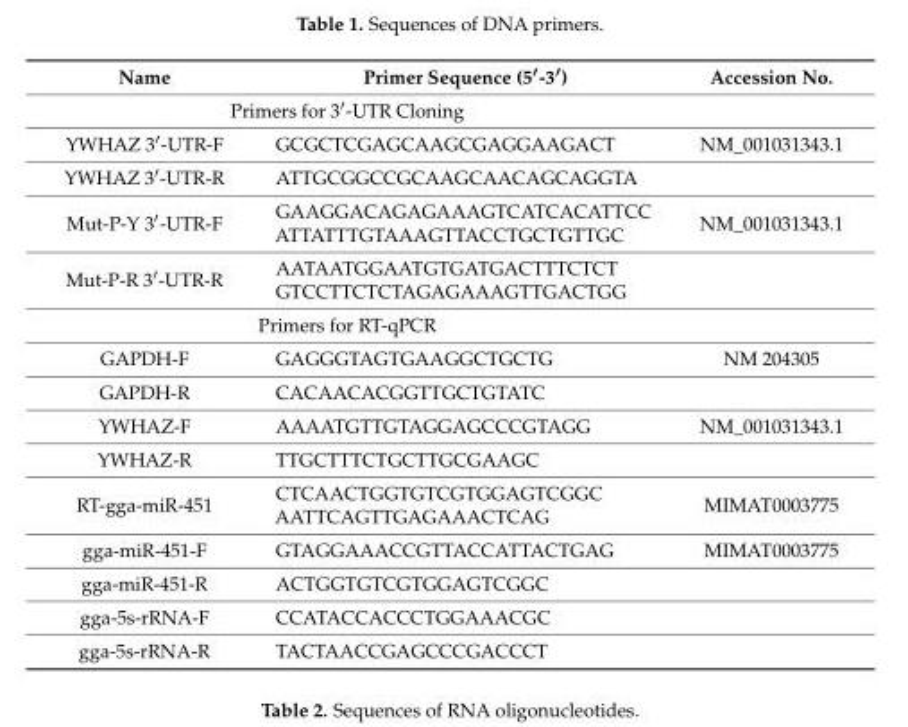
<table><thead><tr><td>Name</td><td>Primer Sequence (5′-3′)</td><td>Accession No.</td></tr></thead><tbody><tr><td colspan="3">Primers for 3′-UTR Cloning</td></tr><tr><td>YWHAZ 3′-UTR-F</td><td>GCGCTCGAGCAAGCGAGGAAGACT</td><td>NM_001031343.1</td></tr><tr><td>YWHAZ 3′-UTR-R</td><td>ATTGCGGCCGCAAGCAACAGCAGGTA</td><td></td></tr><tr><td>Mut-P-Y 3′-UTR-F</td><td>GAAGGACAGAGAAAGTCATCACATTCC ATTATTTGTAAAGTTACCTGCTGTTGC</td><td>NM_001031343.1</td></tr><tr><td>Mut-P-R 3′-UTR-R</td><td>AATAATGGAATGTGATGACTTTCTCT GTCCTTCTCTAGAGAAAGTTGACTGG</td><td></td></tr><tr><td colspan="3">Primers for RT-qPCR</td></tr><tr><td>GAPDH-F</td><td>GAGGGTAGTGAAGGCTGCTG</td><td>NM 204305</td></tr><tr><td>GAPDH-R</td><td>CACAACACGGTTGCTGTATC</td><td></td></tr><tr><td>YWHAZ-F</td><td>AAAATGTTGTAGGAGCCCGTAGG</td><td>NM_001031343.1</td></tr><tr><td>YWHAZ-R</td><td>TTGCTTTCTGCTTGCGAAGC</td><td></td></tr><tr><td>RT-gga-miR-451</td><td>CTCAACTGGTGTCGTGGAGTCGGC AATTCAGTTGAGAAACTCAG</td><td>MIMAT0003775</td></tr><tr><td>gga-miR-451-F</td><td>GTAGGAAACCGTTACCATTACTGAG</td><td>MIMAT0003775</td></tr><tr><td>gga-miR-451-R</td><td>ACTGGTGTCGTGGAGTCGGC</td><td></td></tr><tr><td>gga-5s-rRNA-F</td><td>CCATACCACCCTGGAAACGC</td><td></td></tr><tr><td>gga-5s-rRNA-R</td><td>TACTAACCGAGCCCGACCCT</td><td></td></tr></tbody></table>